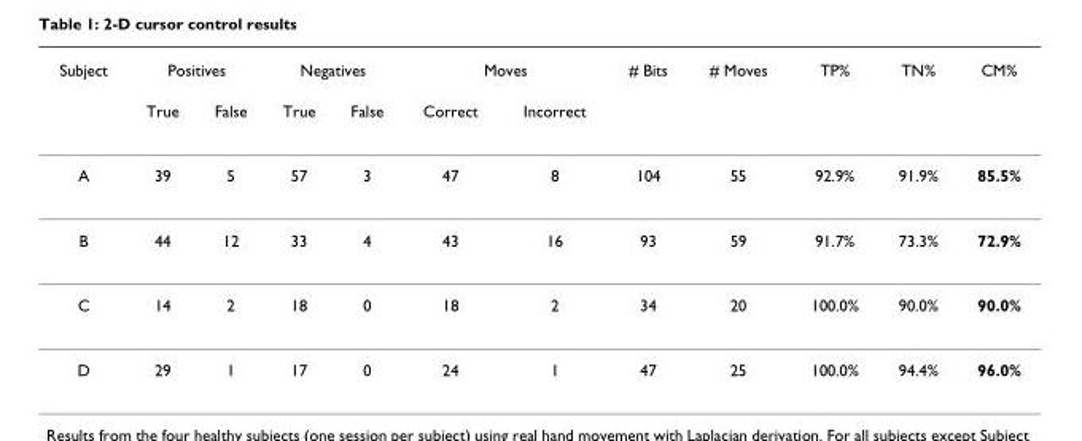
<table><thead><tr><td rowspan="2">Subject</td><td colspan="2">Positives</td><td colspan="2">Negatives</td><td colspan="2">Moves</td><td rowspan="2"># Bits</td><td rowspan="2"># Moves</td><td rowspan="2">TP%</td><td rowspan="2">TN%</td><td rowspan="2">CM%</td></tr><tr><td>True</td><td>False</td><td>True</td><td>False</td><td>Correct</td><td>Incorrect</td></tr></thead><tbody><tr><td>A</td><td>39</td><td>5</td><td>57</td><td>3</td><td>47</td><td>8</td><td>104</td><td>55</td><td>92.9%</td><td>91.9%</td><td>85.5%</td></tr><tr><td>B</td><td>44</td><td>12</td><td>33</td><td>4</td><td>43</td><td>16</td><td>93</td><td>59</td><td>91.7%</td><td>73.3%</td><td>72.9%</td></tr><tr><td>C</td><td>14</td><td>2</td><td>18</td><td>0</td><td>18</td><td>2</td><td>34</td><td>20</td><td>100.0%</td><td>90.0%</td><td>90.0%</td></tr><tr><td>D</td><td>29</td><td>1</td><td>17</td><td>0</td><td>24</td><td>1</td><td>47</td><td>25</td><td>100.0%</td><td>94.4%</td><td>96.0%</td></tr></tbody></table>